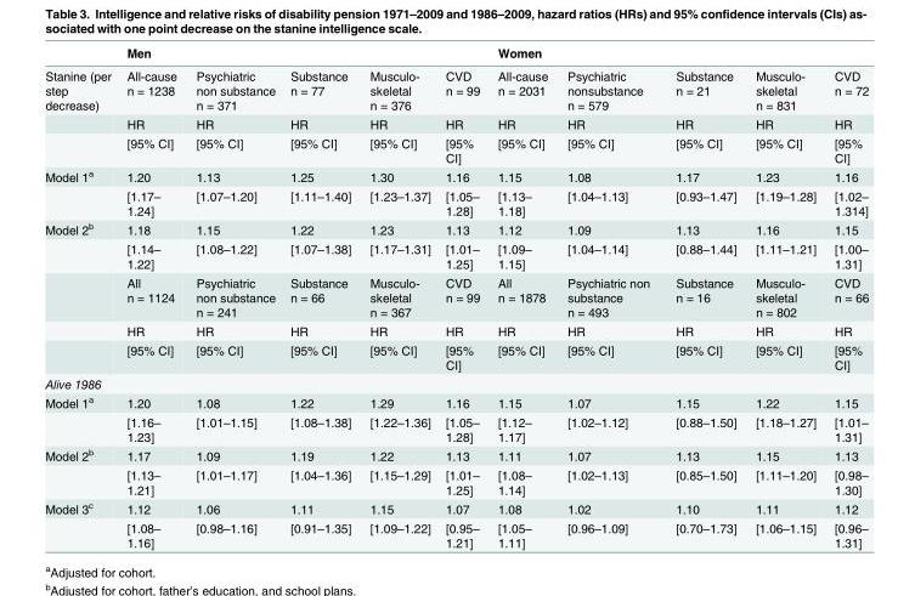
<table><thead><tr><td></td><td>Men</td><td></td><td></td><td></td><td></td><td>Women</td><td></td><td></td><td></td><td></td></tr></thead><tbody><tr><td rowspan="3">Stanine (per step decrease)</td><td>All-cause n = 1238</td><td>Psychiatric non substance n = 371</td><td>Substance n = 77</td><td>Musculo- skeletal n = 376</td><td>CVD n = 99</td><td>All-cause n = 2031</td><td>Psychiatric nonsubstance n = 579</td><td>Substance n = 21</td><td>Musculo- skeletal n = 831</td><td>CVD n = 72</td></tr><tr><td>HR</td><td>HR</td><td>HR</td><td>HR</td><td>HR</td><td>HR</td><td>HR</td><td>HR</td><td>HR</td><td>HR</td></tr><tr><td>[95% CI]</td><td>[95% CI]</td><td>[95% CI]</td><td>[95% CI]</td><td>[95% CI]</td><td>[95% CI]</td><td>[95% CI]</td><td>[95% CI]</td><td>[95% CI]</td><td>[95% CI]</td></tr><tr><td rowspan="2">Model 1<sup>a</sup></td><td>1.20</td><td>1.13</td><td>1.25</td><td>1.30</td><td>1.16</td><td>1.15</td><td>1.08</td><td>1.17</td><td>1.23</td><td>1.16</td></tr><tr><td>[1.17– 1.24]</td><td>[1.07–1.20]</td><td>[1.11–1.40]</td><td>[1.23–1.37]</td><td>[1.05– 1.28]</td><td>[1.13– 1.18]</td><td>[1.04–1.13]</td><td>[0.93–1.47]</td><td>[1.19–1.28]</td><td>[1.02– 1.314]</td></tr><tr><td rowspan="5">Model 2<sup>b</sup></td><td>1.18</td><td>1.15</td><td>1.22</td><td>1.23</td><td>1.13</td><td>1.12</td><td>1.09</td><td>1.13</td><td>1.16</td><td>1.15</td></tr><tr><td>[1.14– 1.22]</td><td>[1.08–1.22]</td><td>[1.07–1.38]</td><td>[1.17–1.31]</td><td>[1.01– 1.25]</td><td>[1.09– 1.15]</td><td>[1.04–1.14]</td><td>[0.88–1.44]</td><td>[1.11–1.21]</td><td>[1.00– 1.31]</td></tr><tr><td>All n = 1124</td><td>Psychiatric non substance n = 241</td><td>Substance n = 66</td><td>Musculo- skeletal n = 367</td><td>CVD n = 99</td><td>All n = 1878</td><td>Psychiatric non substance n = 493</td><td>Substance n = 16</td><td>Musculo- skeletal n = 802</td><td>CVD n = 66</td></tr><tr><td>HR</td><td>HR</td><td>HR</td><td>HR</td><td>HR</td><td>HR</td><td>HR</td><td>HR</td><td>HR</td><td>HR</td></tr><tr><td>[95% CI]</td><td>[95% CI]</td><td>[95% CI]</td><td>[95% CI]</td><td>[95% CI]</td><td>[95% CI]</td><td>[95% CI]</td><td>[95% CI]</td><td>[95% CI]</td><td>[95% CI]</td></tr><tr><td colspan="11">Alive 1986</td></tr><tr><td rowspan="2">Model 1<sup>a</sup></td><td>1.20</td><td>1.08</td><td>1.22</td><td>1.29</td><td>1.16</td><td>1.15</td><td>1.07</td><td>1.15</td><td>1.22</td><td>1.15</td></tr><tr><td>[1.16– 1.23]</td><td>[1.01–1.15]</td><td>[1.08–1.38]</td><td>[1.22–1.36]</td><td>[1.05– 1.28]</td><td>[1.12– 1.17]</td><td>[1.02–1.12]</td><td>[0.88–1.50]</td><td>[1.18–1.27]</td><td>[1.01– 1.31]</td></tr><tr><td rowspan="2">Model 2<sup>b</sup></td><td>1.17</td><td>1.09</td><td>1.19</td><td>1.22</td><td>1.13</td><td>1.11</td><td>1.07</td><td>1.13</td><td>1.15</td><td>1.13</td></tr><tr><td>[1.13– 1.21]</td><td>[1.01–1.17]</td><td>[1.04–1.36]</td><td>[1.15–1.29]</td><td>[1.01– 1.25]</td><td>[1.08– 1.14]</td><td>[1.02–1.13]</td><td>[0.85–1.50]</td><td>[1.11–1.20]</td><td>[0.98– 1.30]</td></tr><tr><td rowspan="2">Model 3<sup>c</sup></td><td>1.12</td><td>1.06</td><td>1.11</td><td>1.15</td><td>1.07</td><td>1.08</td><td>1.02</td><td>1.10</td><td>1.11</td><td>1.12</td></tr><tr><td>[1.08– 1.16]</td><td>[0.98–1.16]</td><td>[0.91–1.35]</td><td>[1.09–1.22]</td><td>[0.95– 1.21]</td><td>[1.05– 1.11]</td><td>[0.96–1.09]</td><td>[0.70–1.73]</td><td>[1.06–1.15]</td><td>[0.96– 1.31]</td></tr></tbody></table>